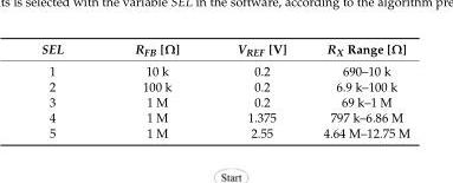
<table><thead><tr><td>SEL</td><td>R<sub>FB</sub> [Ω]</td><td>V<sub>REF</sub> [V]</td><td>R<sub>X</sub> Range [Ω]</td></tr></thead><tbody><tr><td>1</td><td>10 k</td><td>0.2</td><td>690–10 k</td></tr><tr><td>2</td><td>100 k</td><td>0.2</td><td>6.9 k–100 k</td></tr><tr><td>3</td><td>1 M</td><td>0.2</td><td>69 k–1 M</td></tr><tr><td>4</td><td>1 M</td><td>1.375</td><td>797 k–6.86 M</td></tr><tr><td>5</td><td>1 M</td><td>2.55</td><td>4.64 M–12.75 M</td></tr></tbody></table>